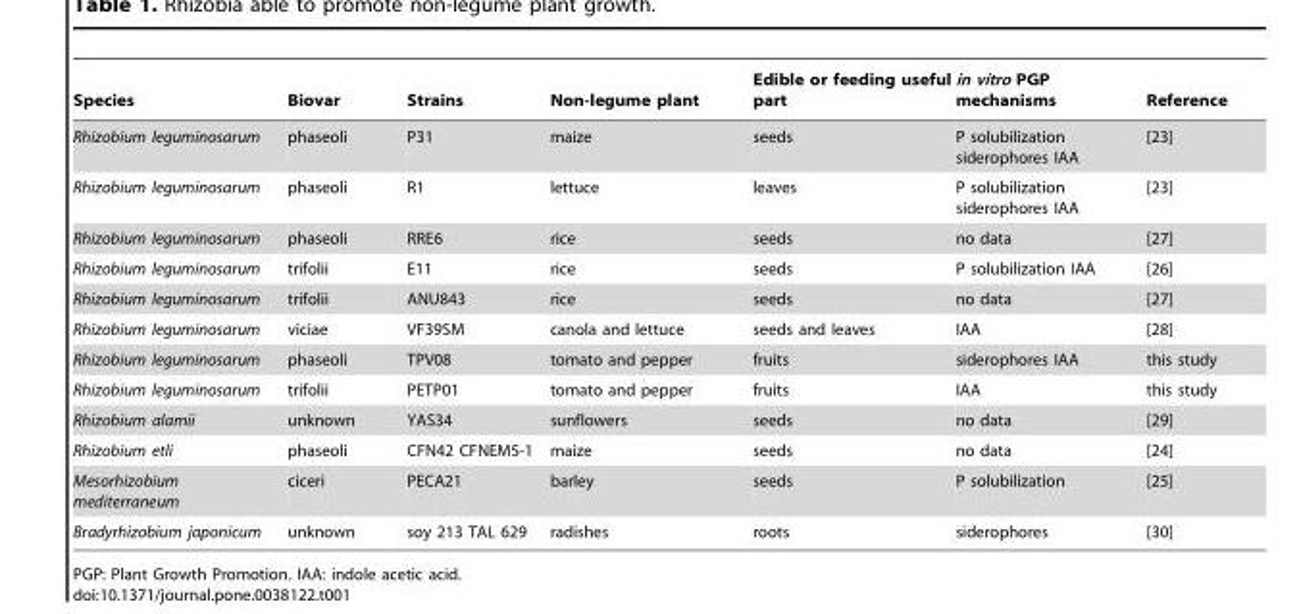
<table><thead><tr><td>Species</td><td>Biovar</td><td>Strains</td><td>Non-legume plant</td><td>Edible or feeding useful part</td><td>in vitro PGP mechanisms</td><td>Reference</td></tr></thead><tbody><tr><td>Rhizobium leguminosarum</td><td>phaseoli</td><td>P31</td><td>maize</td><td>seeds</td><td>P solubilization siderophores IAA</td><td>[23]</td></tr><tr><td>Rhizobium leguminosarum</td><td>phaseoli</td><td>R1</td><td>lettuce</td><td>leaves</td><td>P solubilization siderophores IAA</td><td>[23]</td></tr><tr><td>Rhizobium leguminosarum</td><td>phaseoli</td><td>RRE6</td><td>rice</td><td>seeds</td><td>no data</td><td>[27]</td></tr><tr><td>Rhizobium leguminosarum</td><td>trifolii</td><td>E11</td><td>rice</td><td>seeds</td><td>P solubilization IAA</td><td>[26]</td></tr><tr><td>Rhizobium leguminosarum</td><td>trifolii</td><td>ANU843</td><td>rice</td><td>seeds</td><td>no data</td><td>[27]</td></tr><tr><td>Rhizobium leguminosarum</td><td>viciae</td><td>VF39SM</td><td>canola and lettuce</td><td>seeds and leaves</td><td>IAA</td><td>[28]</td></tr><tr><td>Rhizobium leguminosarum</td><td>phaseoli</td><td>TPV08</td><td>tomato and pepper</td><td>fruits</td><td>siderophores IAA</td><td>this study</td></tr><tr><td>Rhizobium leguminosarum</td><td>trifolii</td><td>PETP01</td><td>tomato and pepper</td><td>fruits</td><td>IAA</td><td>this study</td></tr><tr><td>Rhizobium alamii</td><td>unknown</td><td>YAS34</td><td>sunflowers</td><td>seeds</td><td>no data</td><td>[29]</td></tr><tr><td>Rhizobium etli</td><td>phaseoli</td><td>CFN42 CFNEM5-1</td><td>maize</td><td>seeds</td><td>no data</td><td>[24]</td></tr><tr><td>Mesorhizobium mediterraneum</td><td>ciceri</td><td>PECA21</td><td>barley</td><td>seeds</td><td>P solubilization</td><td>[25]</td></tr><tr><td>Bradyrhizobium japonicum</td><td>unknown</td><td>soy 213 TAL 629</td><td>radishes</td><td>roots</td><td>siderophores</td><td>[30]</td></tr></tbody></table>